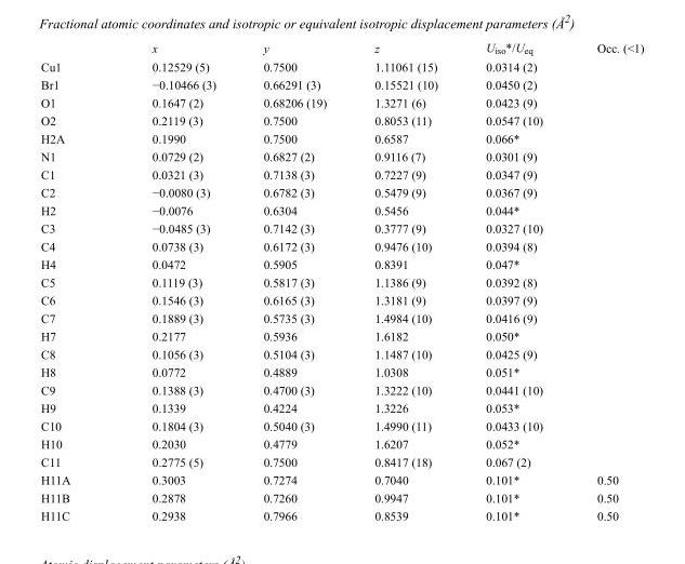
<table><thead><tr><td></td><td>x</td><td>y</td><td>z</td><td>U<sub>iso</sub>*/U<sub>eq</sub></td><td>Occ. (&lt;1)</td></tr></thead><tbody><tr><td>Cu1</td><td>0.12529 (5)</td><td>0.7500</td><td>1.11061 (15)</td><td>0.0314 (2)</td><td></td></tr><tr><td>Br1</td><td>−0.10466 (3)</td><td>0.66291 (3)</td><td>0.15521 (10)</td><td>0.0450 (2)</td><td></td></tr><tr><td>O1</td><td>0.1647 (2)</td><td>0.68206 (19)</td><td>1.3271 (6)</td><td>0.0423 (9)</td><td></td></tr><tr><td>O2</td><td>0.2119 (3)</td><td>0.7500</td><td>0.8053 (11)</td><td>0.0547 (10)</td><td></td></tr><tr><td>H2A</td><td>0.1990</td><td>0.7500</td><td>0.6587</td><td>0.066*</td><td></td></tr><tr><td>N1</td><td>0.0729 (2)</td><td>0.6827 (2)</td><td>0.9116 (7)</td><td>0.0301 (9)</td><td></td></tr><tr><td>C1</td><td>0.0321 (3)</td><td>0.7138 (3)</td><td>0.7227 (9)</td><td>0.0347 (9)</td><td></td></tr><tr><td>C2</td><td>−0.0080 (3)</td><td>0.6782 (3)</td><td>0.5479 (9)</td><td>0.0367 (9)</td><td></td></tr><tr><td>H2</td><td>−0.0076</td><td>0.6304</td><td>0.5456</td><td>0.044*</td><td></td></tr><tr><td>C3</td><td>−0.0485 (3)</td><td>0.7142 (3)</td><td>0.3777 (9)</td><td>0.0327 (10)</td><td></td></tr><tr><td>C4</td><td>0.0738 (3)</td><td>0.6172 (3)</td><td>0.9476 (10)</td><td>0.0394 (8)</td><td></td></tr><tr><td>H4</td><td>0.0472</td><td>0.5905</td><td>0.8391</td><td>0.047*</td><td></td></tr><tr><td>C5</td><td>0.1119 (3)</td><td>0.5817 (3)</td><td>1.1386 (9)</td><td>0.0392 (8)</td><td></td></tr><tr><td>C6</td><td>0.1546 (3)</td><td>0.6165 (3)</td><td>1.3181 (9)</td><td>0.0397 (9)</td><td></td></tr><tr><td>C7</td><td>0.1889 (3)</td><td>0.5735 (3)</td><td>1.4984 (10)</td><td>0.0416 (9)</td><td></td></tr><tr><td>H7</td><td>0.2177</td><td>0.5936</td><td>1.6182</td><td>0.050*</td><td></td></tr><tr><td>C8</td><td>0.1056 (3)</td><td>0.5104 (3)</td><td>1.1487 (10)</td><td>0.0425 (9)</td><td></td></tr><tr><td>H8</td><td>0.0772</td><td>0.4889</td><td>1.0308</td><td>0.051*</td><td></td></tr><tr><td>C9</td><td>0.1388 (3)</td><td>0.4700 (3)</td><td>1.3222 (10)</td><td>0.0441 (10)</td><td></td></tr><tr><td>H9</td><td>0.1339</td><td>0.4224</td><td>1.3226</td><td>0.053*</td><td></td></tr><tr><td>C10</td><td>0.1804 (3)</td><td>0.5040 (3)</td><td>1.4990 (11)</td><td>0.0433 (10)</td><td></td></tr><tr><td>H10</td><td>0.2030</td><td>0.4779</td><td>1.6207</td><td>0.052*</td><td></td></tr><tr><td>C11</td><td>0.2775 (5)</td><td>0.7500</td><td>0.8417 (18)</td><td>0.067 (2)</td><td></td></tr><tr><td>H11A</td><td>0.3003</td><td>0.7274</td><td>0.7040</td><td>0.101*</td><td>0.50</td></tr><tr><td>H11B</td><td>0.2878</td><td>0.7260</td><td>0.9947</td><td>0.101*</td><td>0.50</td></tr><tr><td>H11C</td><td>0.2938</td><td>0.7966</td><td>0.8539</td><td>0.101*</td><td>0.50</td></tr></tbody></table>